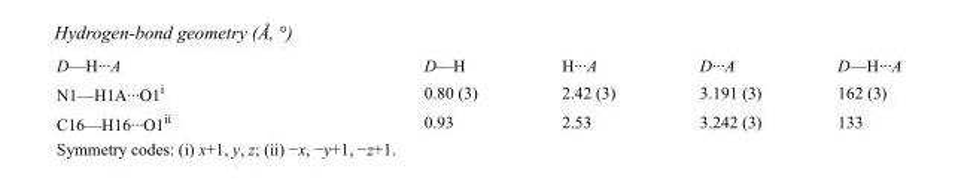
<table><tbody><tr><td>D—H···A</td><td>D—H</td><td>H···A</td><td>D···A</td><td>D—H···A</td></tr><tr><td>N1—H1A···O1<sup>i</sup></td><td>0.80 (3)</td><td>2.42 (3)</td><td>3.191 (3)</td><td>162 (3)</td></tr><tr><td>C16—H16···O1<sup>ii</sup></td><td>0.93</td><td>2.53</td><td>3.242 (3)</td><td>133</td></tr></tbody></table>